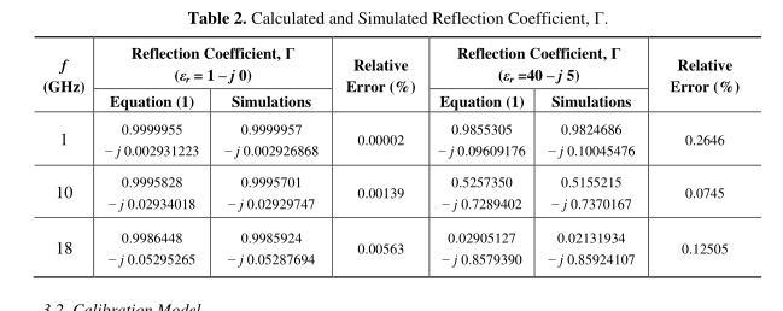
<table><thead><tr><td rowspan="2">f (GHz)</td><td colspan="2">Reflection Coefficient, Γ (ε<sub>r</sub> = 1 – j 0)</td><td rowspan="2">Relative Error (%)</td><td colspan="2">Reflection Coefficient, Γ (ε<sub>r</sub> =40 – j 5)</td><td rowspan="2">Relative Error (%)</td></tr><tr><td>Equation (1)</td><td>Simulations</td><td>Equation (1)</td><td>Simulations</td></tr></thead><tbody><tr><td>1</td><td>0.9999955 − j 0.002931223</td><td>0.9999957 − j 0.002926868</td><td>0.00002</td><td>0.9855305 − j 0.09609176</td><td>0.9824686 − j 0.10045476</td><td>0.2646</td></tr><tr><td>10</td><td>0.9995828 − j 0.02934018</td><td>0.9995701 − j 0.02929747</td><td>0.00139</td><td>0.5257350 − j 0.7289402</td><td>0.5155215 − j 0.7370167</td><td>0.0745</td></tr><tr><td>18</td><td>0.9986448 − j 0.05295265</td><td>0.9985924 − j 0.05287694</td><td>0.00563</td><td>0.02905127 − j 0.8579390</td><td>0.02131934 − j 0.85924107</td><td>0.12505</td></tr></tbody></table>